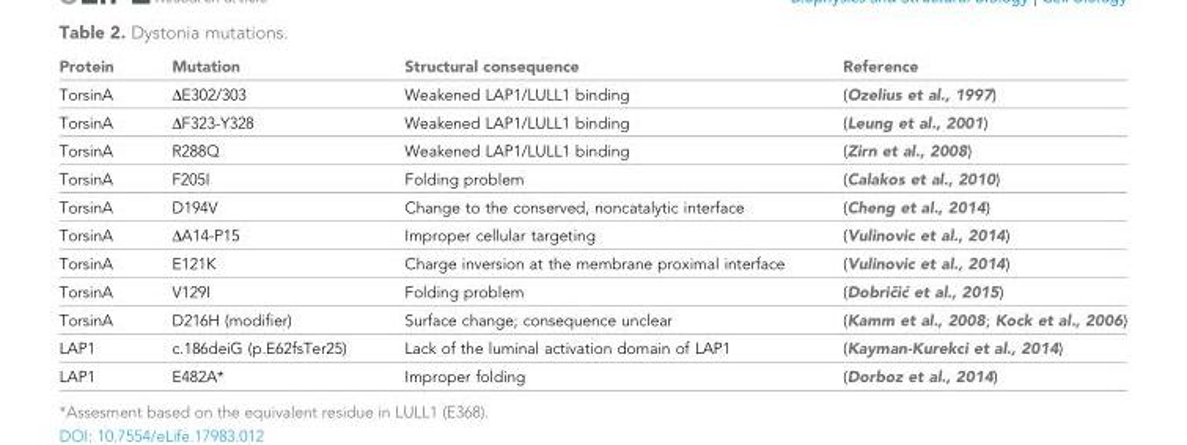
<table><thead><tr><td>Protein</td><td>Mutation</td><td>Structural consequence</td><td>Reference</td></tr></thead><tbody><tr><td>TorsinA</td><td>∆E302/303</td><td>Weakened LAP1/LULL1 binding</td><td>(Ozelius et al., 1997)</td></tr><tr><td>TorsinA</td><td>∆F323-Y328</td><td>Weakened LAP1/LULL1 binding</td><td>(Leung et al., 2001)</td></tr><tr><td>TorsinA</td><td>R288Q</td><td>Weakened LAP1/LULL1 binding</td><td>(Zirn et al., 2008)</td></tr><tr><td>TorsinA</td><td>F205I</td><td>Folding problem</td><td>(Calakos et al., 2010)</td></tr><tr><td>TorsinA</td><td>D194V</td><td>Change to the conserved, noncatalytic interface</td><td>(Cheng et al., 2014)</td></tr><tr><td>TorsinA</td><td>∆A14-P15</td><td>Improper cellular targeting</td><td>(Vulinovic et al., 2014)</td></tr><tr><td>TorsinA</td><td>E121K</td><td>Charge inversion at the membrane proximal interface</td><td>(Vulinovic et al., 2014)</td></tr><tr><td>TorsinA</td><td>V129I</td><td>Folding problem</td><td>(Dobricˇic´ et al., 2015)</td></tr><tr><td>TorsinA</td><td>D216H (modifier)</td><td>Surface change; consequence unclear</td><td>(Kamm et al., 2008; Kock et al., 2006)</td></tr><tr><td>LAP1</td><td>c.186deiG (p.E62fsTer25)</td><td>Lack of the luminal activation domain of LAP1</td><td>(Kayman-Kurekci et al., 2014)</td></tr><tr><td>LAP1</td><td>E482A*</td><td>Improper folding</td><td>(Dorboz et al., 2014)</td></tr></tbody></table>